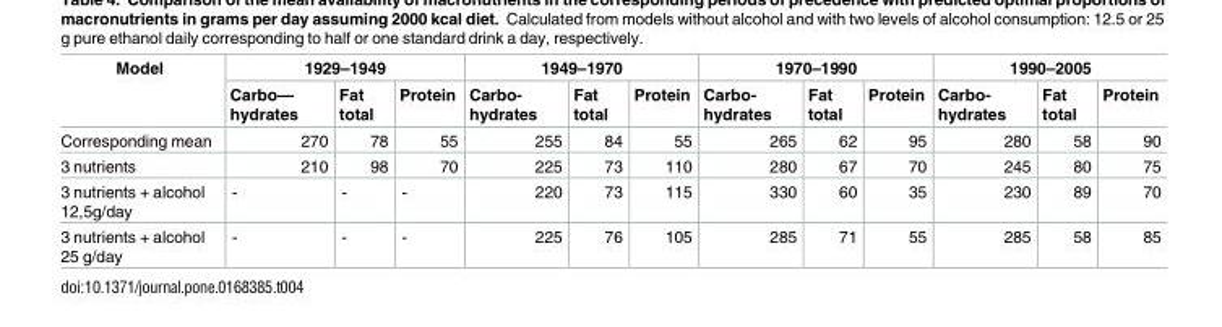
<table><thead><tr><td rowspan="2">Model</td><td colspan="3">1929–1949</td><td colspan="3">1949–1970</td><td colspan="3">1970–1990</td><td colspan="3">1990–2005</td></tr><tr><td>Carbo— hydrates</td><td>Fat total</td><td>Protein</td><td>Carbo- hydrates</td><td>Fat total</td><td>Protein</td><td>Carbo- hydrates</td><td>Fat total</td><td>Protein</td><td>Carbo- hydrates</td><td>Fat total</td><td>Protein</td></tr></thead><tbody><tr><td>Corresponding mean</td><td>270</td><td>78</td><td>55</td><td>255</td><td>84</td><td>55</td><td>265</td><td>62</td><td>95</td><td>280</td><td>58</td><td>90</td></tr><tr><td>3 nutrients</td><td>210</td><td>98</td><td>70</td><td>225</td><td>73</td><td>110</td><td>280</td><td>67</td><td>70</td><td>245</td><td>80</td><td>75</td></tr><tr><td>3 nutrients + alcohol 12,5g/day</td><td>-</td><td>-</td><td>-</td><td>220</td><td>73</td><td>115</td><td>330</td><td>60</td><td>35</td><td>230</td><td>89</td><td>70</td></tr><tr><td>3 nutrients + alcohol 25 g/day</td><td>-</td><td>-</td><td>-</td><td>225</td><td>76</td><td>105</td><td>285</td><td>71</td><td>55</td><td>285</td><td>58</td><td>85</td></tr></tbody></table>